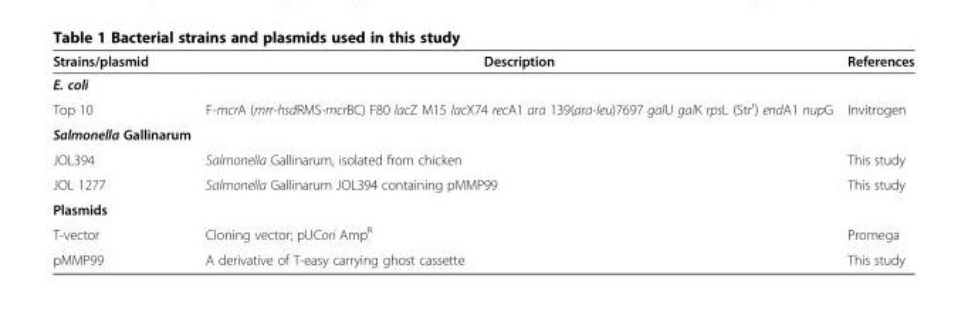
<table><thead><tr><td>Strains/plasmid</td><td>Description</td><td>References</td></tr></thead><tbody><tr><td colspan="3">E. coli</td></tr><tr><td>Top 10</td><td>F-mcrA (mrr-hsdRMS-mcrBC) F80 lacZ M15 lacX74 recA1 ara 139(ara-leu)7697 galU galK rpsL (Str<sup>r</sup>) endA1 nupG</td><td>Invitrogen</td></tr><tr><td colspan="3">Salmonella Gallinarum</td></tr><tr><td>JOL394</td><td>Salmonella Gallinarum, isolated from chicken</td><td>This study</td></tr><tr><td>JOL 1277</td><td>Salmonella Gallinarum JOL394 containing pMMP99</td><td>This study</td></tr><tr><td colspan="3">Plasmids</td></tr><tr><td>T-vector</td><td>Cloning vector; pUCori Amp<sup>R</sup></td><td>Promega</td></tr><tr><td>pMMP99</td><td>A derivative of T-easy carrying ghost cassette</td><td>This study</td></tr></tbody></table>